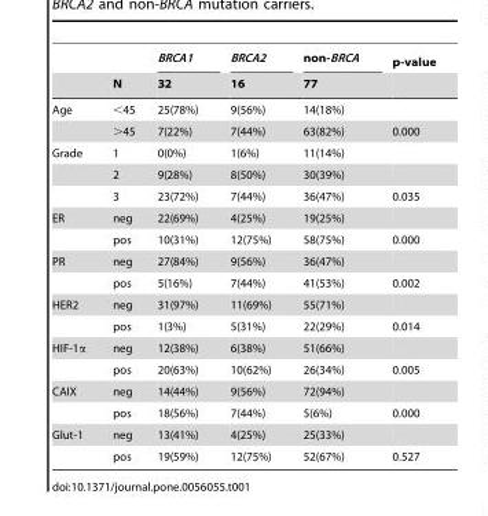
<table><thead><tr><td rowspan="2"></td><td rowspan="2">N</td><td rowspan="2">BRCA1 32</td><td rowspan="2">BRCA2 16</td><td rowspan="2">non-BRCA 77</td><td rowspan="2">p-value</td></tr><tr></tr></thead><tbody><tr><td rowspan="2">Age</td><td>&lt;45</td><td>25(78%)</td><td>9(56%)</td><td>14(18%)</td><td></td></tr><tr><td>&gt;45</td><td>7(22%)</td><td>7(44%)</td><td>63(82%)</td><td>0.000</td></tr><tr><td rowspan="3">Grade</td><td>1</td><td>0(0%)</td><td>1(6%)</td><td>11(14%)</td><td></td></tr><tr><td>2</td><td>9(28%)</td><td>8(50%)</td><td>30(39%)</td><td></td></tr><tr><td>3</td><td>23(72%)</td><td>7(44%)</td><td>36(47%)</td><td>0.035</td></tr><tr><td rowspan="2">ER</td><td>neg</td><td>22(69%)</td><td>4(25%)</td><td>19(25%)</td><td></td></tr><tr><td>pos</td><td>10(31%)</td><td>12(75%)</td><td>58(75%)</td><td>0.000</td></tr><tr><td rowspan="2">PR</td><td>neg</td><td>27(84%)</td><td>9(56%)</td><td>36(47%)</td><td></td></tr><tr><td>pos</td><td>5(16%)</td><td>7(44%)</td><td>41(53%)</td><td>0.002</td></tr><tr><td rowspan="2">HER2</td><td>neg</td><td>31(97%)</td><td>11(69%)</td><td>55(71%)</td><td></td></tr><tr><td>pos</td><td>1(3%)</td><td>5(31%)</td><td>22(29%)</td><td>0.014</td></tr><tr><td rowspan="2">HIF-1α</td><td>neg</td><td>12(38%)</td><td>6(38%)</td><td>51(66%)</td><td></td></tr><tr><td>pos</td><td>20(63%)</td><td>10(62%)</td><td>26(34%)</td><td>0.005</td></tr><tr><td rowspan="2">CAIX</td><td>neg</td><td>14(44%)</td><td>9(56%)</td><td>72(94%)</td><td></td></tr><tr><td>pos</td><td>18(56%)</td><td>7(44%)</td><td>5(6%)</td><td>0.000</td></tr><tr><td rowspan="2">Glut-1</td><td>neg</td><td>13(41%)</td><td>4(25%)</td><td>25(33%)</td><td></td></tr><tr><td>pos</td><td>19(59%)</td><td>12(75%)</td><td>52(67%)</td><td>0.527</td></tr></tbody></table>